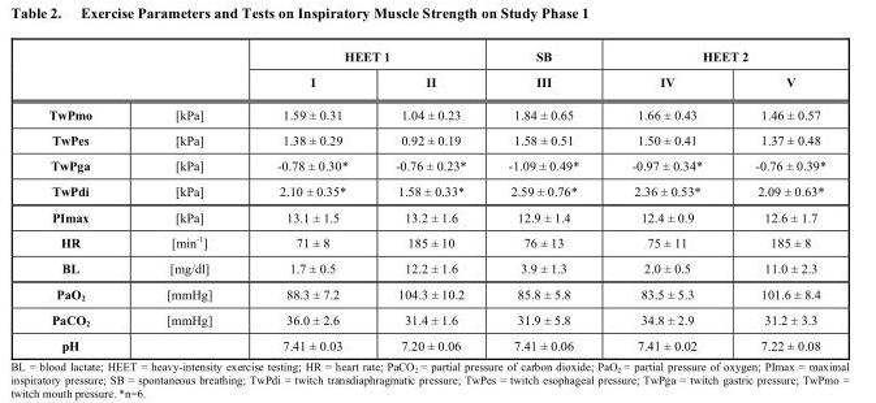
<table><thead><tr><td rowspan="2"></td><td rowspan="2"></td><td colspan="2">HEET 1</td><td rowspan="2">SB III</td><td colspan="2">HEET 2</td></tr><tr><td>I</td><td>II</td><td>IV</td><td>V</td></tr></thead><tbody><tr><td>TwPmo</td><td>[kPa]</td><td>1.59 ± 0.31</td><td>1.04 ± 0.23</td><td>1.84 ± 0.65</td><td>1.66 ± 0.43</td><td>1.46 ± 0.57</td></tr><tr><td>TwPes</td><td>[kPa]</td><td>1.38 ± 0.29</td><td>0.92 ± 0.19</td><td>1.58 ± 0.51</td><td>1.50 ± 0.41</td><td>1.37 ± 0.48</td></tr><tr><td>TwPga</td><td>[kPa]</td><td>-0.78 ± 0.30*</td><td>-0.76 ± 0.23*</td><td>-1.09 ± 0.49*</td><td>-0.97 ± 0.34*</td><td>-0.76 ± 0.39*</td></tr><tr><td>TwPdi</td><td>[kPa]</td><td>2.10 ± 0.35*</td><td>1.58 ± 0.33*</td><td>2.59 ± 0.76*</td><td>2.36 ± 0.53*</td><td>2.09 ± 0.63*</td></tr><tr><td>PImax</td><td>[kPa]</td><td>13.1 ± 1.5</td><td>13.2 ± 1.6</td><td>12.9 ± 1.4</td><td>12.4 ± 0.9</td><td>12.6 ± 1.7</td></tr><tr><td>HR</td><td>[min<sup>-1</sup>]</td><td>71 ± 8</td><td>185 ± 10</td><td>76 ± 13</td><td>75 ± 11</td><td>185 ± 8</td></tr><tr><td>BL</td><td>[mg/dl]</td><td>1.7 ± 0.5</td><td>12.2 ± 1.6</td><td>3.9 ± 1.3</td><td>2.0 ± 0.5</td><td>11.0 ± 2.3</td></tr><tr><td>PaO<sub>2</sub></td><td>[mmHg]</td><td>88.3 ± 7.2</td><td>104.3 ± 10.2</td><td>85.8 ± 5.8</td><td>83.5 ± 5.3</td><td>101.6 ± 8.4</td></tr><tr><td>PaCO<sub>2</sub></td><td>[mmHg]</td><td>36.0 ± 2.6</td><td>31.4 ± 1.6</td><td>31.9 ± 5.8</td><td>34.8 ± 2.9</td><td>31.2 ± 3.3</td></tr><tr><td>pH</td><td></td><td>7.41 ± 0.03</td><td>7.20 ± 0.06</td><td>7.41 ± 0.06</td><td>7.41 ± 0.02</td><td>7.22 ± 0.08</td></tr></tbody></table>